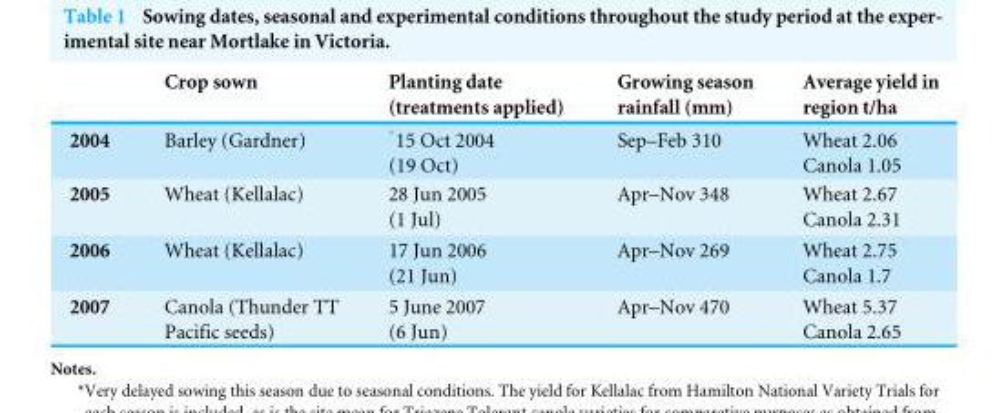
<table><thead><tr><td></td><td>Crop sown</td><td>Planting date (treatments applied)</td><td>Growing season rainfall (mm)</td><td>Average yield in region t/ha</td></tr></thead><tbody><tr><td>2004</td><td>Barley (Gardner)</td><td>*15 Oct 2004 (19 Oct)</td><td>Sep–Feb 310</td><td>Wheat 2.06 Canola 1.05</td></tr><tr><td>2005</td><td>Wheat (Kellalac)</td><td>28 Jun 2005 (1 Jul)</td><td>Apr–Nov 348</td><td>Wheat 2.67 Canola 2.31</td></tr><tr><td>2006</td><td>Wheat (Kellalac)</td><td>17 Jun 2006 (21 Jun)</td><td>Apr–Nov 269</td><td>Wheat 2.75 Canola 1.7</td></tr><tr><td>2007</td><td>Canola (Thunder TT Pacific seeds)</td><td>5 June 2007 (6 Jun)</td><td>Apr–Nov 470</td><td>Wheat 5.37 Canola 2.65</td></tr></tbody></table>